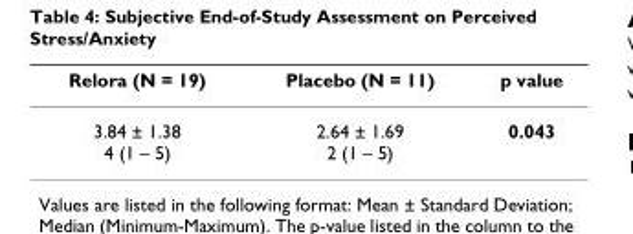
<table><thead><tr><td>Relora (N = 19)</td><td>Placebo (N = 11)</td><td>p value</td></tr></thead><tbody><tr><td>3.84 ± 1.38 4 (1 – 5)</td><td>2.64 ± 1.69 2 (1 – 5)</td><td>0.043</td></tr></tbody></table>